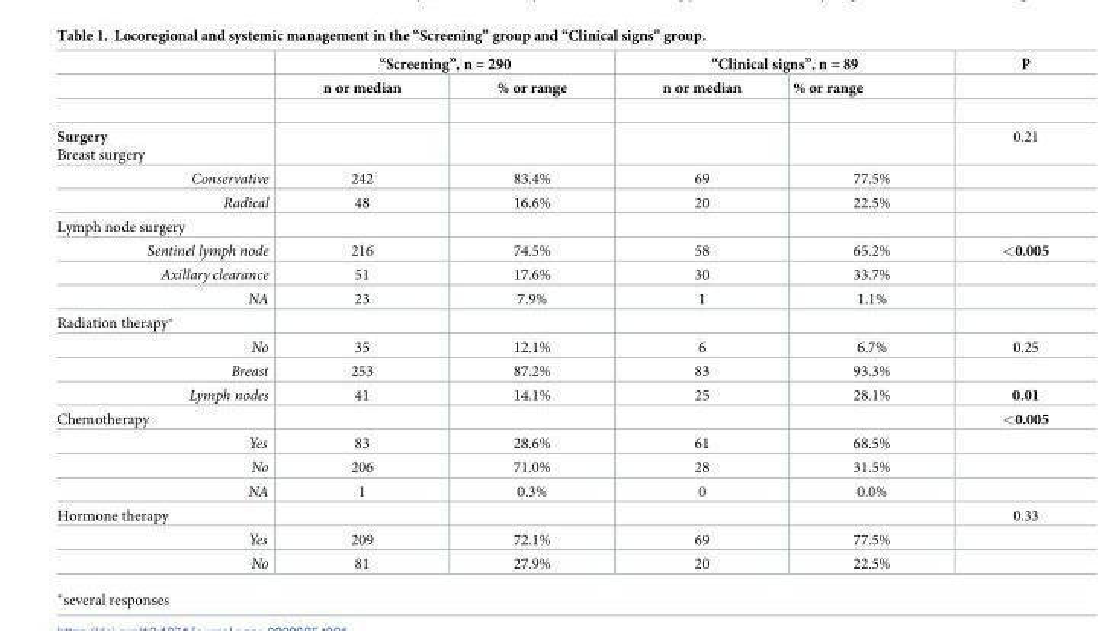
<table><thead><tr><td rowspan="2"></td><td colspan="2">“Screening”, n = 290</td><td colspan="2">“Clinical signs”, n = 89</td><td rowspan="2">P</td></tr><tr><td>n or median</td><td>% or range</td><td>n or median</td><td>% or range</td></tr></thead><tbody><tr><td>Surgery Breast surgery</td><td></td><td></td><td></td><td></td><td>0.21</td></tr><tr><td>Conservative</td><td>242</td><td>83.4%</td><td>69</td><td>77.5%</td><td></td></tr><tr><td>Radical</td><td>48</td><td>16.6%</td><td>20</td><td>22.5%</td><td></td></tr><tr><td colspan="6">Lymph node surgery</td></tr><tr><td>Sentinel lymph node</td><td>216</td><td>74.5%</td><td>58</td><td>65.2%</td><td>&lt;0.005</td></tr><tr><td>Axillary clearance</td><td>51</td><td>17.6%</td><td>30</td><td>33.7%</td><td></td></tr><tr><td>NA</td><td>23</td><td>7.9%</td><td>1</td><td>1.1%</td><td></td></tr><tr><td colspan="6">Radiation therapy*</td></tr><tr><td>No</td><td>35</td><td>12.1%</td><td>6</td><td>6.7%</td><td>0.25</td></tr><tr><td>Breast</td><td>253</td><td>87.2%</td><td>83</td><td>93.3%</td><td></td></tr><tr><td>Lymph nodes</td><td>41</td><td>14.1%</td><td>25</td><td>28.1%</td><td>0.01</td></tr><tr><td>Chemotherapy</td><td></td><td></td><td></td><td></td><td>&lt;0.005</td></tr><tr><td>Yes</td><td>83</td><td>28.6%</td><td>61</td><td>68.5%</td><td></td></tr><tr><td>No</td><td>206</td><td>71.0%</td><td>28</td><td>31.5%</td><td></td></tr><tr><td>NA</td><td>1</td><td>0.3%</td><td>0</td><td>0.0%</td><td></td></tr><tr><td>Hormone therapy</td><td></td><td></td><td></td><td></td><td>0.33</td></tr><tr><td>Yes</td><td>209</td><td>72.1%</td><td>69</td><td>77.5%</td><td></td></tr><tr><td>No</td><td>81</td><td>27.9%</td><td>20</td><td>22.5%</td><td></td></tr></tbody></table>